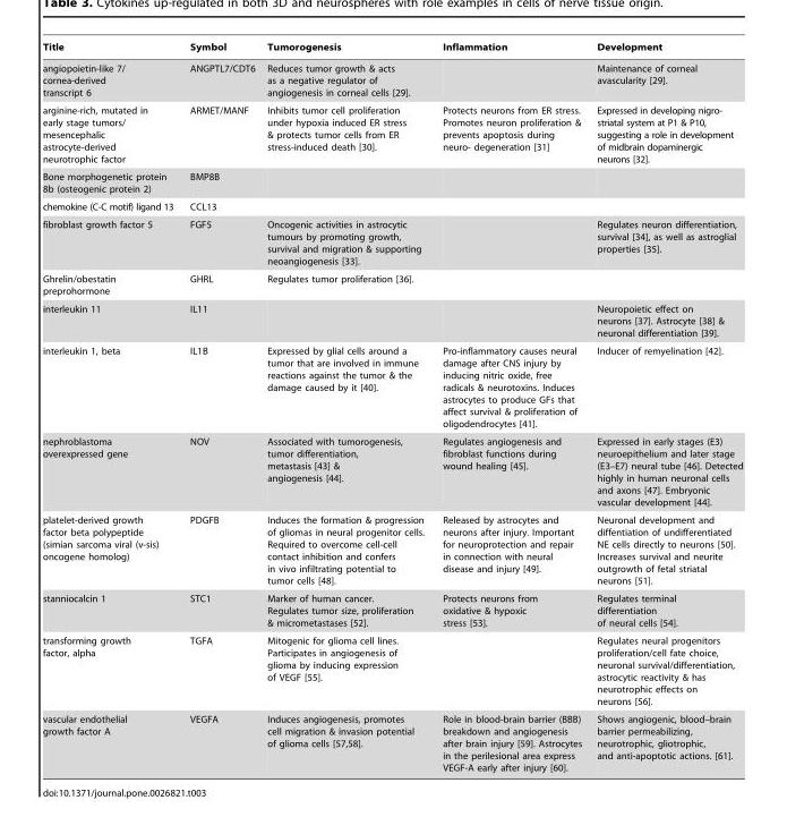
<table><thead><tr><td>Title</td><td>Symbol</td><td>Tumorogenesis</td><td>Inflammation</td><td>Development</td></tr></thead><tbody><tr><td>angiopoietin-like 7/ cornea-derived transcript 6</td><td>ANGPTL7/CDT6</td><td>Reduces tumor growth &amp; acts as a negative regulator of angiogenesis in corneal cells [29].</td><td></td><td>Maintenance of corneal avascularity [29].</td></tr><tr><td>arginine-rich, mutated in early stage tumors/ mesencephalic astrocyte-derived neurotrophic factor</td><td>ARMET/MANF</td><td>Inhibits tumor cell proliferation under hypoxia induced ER stress &amp; protects tumor cells from ER stress-induced death [30].</td><td>Protects neurons from ER stress. Promotes neuron proliferation &amp; prevents apoptosis during neuro- degeneration [31]</td><td>Expressed in developing nigro- striatal system at P1 &amp; P10, suggesting a role in development of midbrain dopaminergic neurons [32].</td></tr><tr><td>Bone morphogenetic protein 8b (osteogenic protein 2)</td><td>BMP8B</td><td></td><td></td><td></td></tr><tr><td>chemokine (C-C motif) ligand 13</td><td>CCL13</td><td></td><td></td><td></td></tr><tr><td>fibroblast growth factor 5</td><td>FGF5</td><td>Oncogenic activities in astrocytic tumours by promoting growth, survival and migration &amp; supporting neoangiogenesis [33].</td><td></td><td>Regulates neuron differentiation, survival [34], as well as astroglial properties [35].</td></tr><tr><td>Ghrelin/obestatin preprohormone</td><td>GHRL</td><td>Regulates tumor proliferation [36].</td><td></td><td></td></tr><tr><td>interleukin 11</td><td>IL11</td><td></td><td></td><td>Neuropoietic effect on neurons [37]. Astrocyte [38] &amp; neuronal differentiation [39].</td></tr><tr><td>interleukin 1, beta</td><td>IL1B</td><td>Expressed by glial cells around a tumor that are involved in immune reactions against the tumor &amp; the damage caused by it [40].</td><td>Pro-inflammatory causes neural damage after CNS injury by inducing nitric oxide, free radicals &amp; neurotoxins. Induces astrocytes to produce GFs that affect survival &amp; proliferation of oligodendrocytes [41].</td><td>Inducer of remyelination [42].</td></tr><tr><td>nephroblastoma overexpressed gene</td><td>NOV</td><td>Associated with tumorogenesis, tumor differentiation, metastasis [43] &amp; angiogenesis [44].</td><td>Regulates angiogenesis and fibroblast functions during wound healing [45].</td><td>Expressed in early stages (E3) neuroepithelium and later stage (E3–E7) neural tube [46]. Detected highly in human neuronal cells and axons [47]. Embryonic vascular development [44].</td></tr><tr><td>platelet-derived growth factor beta polypeptide (simian sarcoma viral (v-sis) oncogene homolog)</td><td>PDGFB</td><td>Induces the formation &amp; progression of gliomas in neural progenitor cells. Required to overcome cell-cell contact inhibition and confers in vivo infiltrating potential to tumor cells [48].</td><td>Released by astrocytes and neurons after injury. Important for neuroprotection and repair in connection with neural disease and injury [49].</td><td>Neuronal development and diffentiation of undifferentiated NE cells directly to neurons [50]. Increases survival and neurite outgrowth of fetal striatal neurons [51].</td></tr><tr><td>stanniocalcin 1</td><td>STC1</td><td>Marker of human cancer. Regulates tumor size, proliferation &amp; micrometastases [52].</td><td>Protects neurons from oxidative &amp; hypoxic stress [53].</td><td>Regulates terminal differentiation of neural cells [54].</td></tr><tr><td>transforming growth factor, alpha</td><td>TGFA</td><td>Mitogenic for glioma cell lines. Participates in angiogenesis of glioma by inducing expression of VEGF [55].</td><td></td><td>Regulates neural progenitors proliferation/cell fate choice, neuronal survival/differentiation, astrocytic reactivity &amp; has neurotrophic effects on neurons [56].</td></tr><tr><td>vascular endothelial growth factor A</td><td>VEGFA</td><td>Induces angiogenesis, promotes cell migration &amp; invasion potential of glioma cells [57,58].</td><td>Role in blood-brain barrier (BBB) breakdown and angiogenesis after brain injury [59]. Astrocytes in the perilesional area express VEGF-A early after injury [60].</td><td>Shows angiogenic, blood–brain barrier permeabilizing, neurotrophic, gliotrophic, and anti-apoptotic actions. [61].</td></tr></tbody></table>